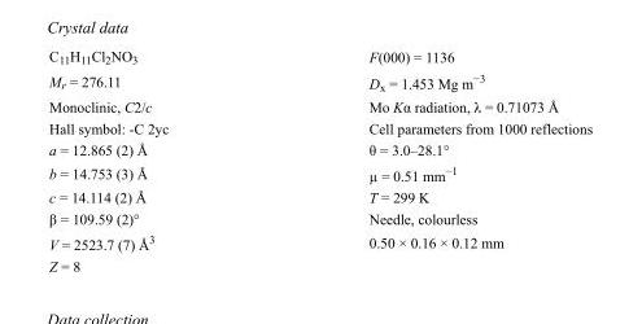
<table><tbody><tr><td>C<sub>11</sub>H<sub>11</sub>Cl<sub>2</sub>NO<sub>3</sub></td><td>F(000) = 1136</td></tr><tr><td>M<sub>r</sub> = 276.11</td><td>D<sub>x</sub> = 1.453 Mg m<sup>−3</sup></td></tr><tr><td>Monoclinic, C2/c</td><td>Mo Kα radiation, λ = 0.71073 Å</td></tr><tr><td>Hall symbol: -C 2yc</td><td>Cell parameters from 1000 reflections</td></tr><tr><td>a = 12.865 (2) Å</td><td>θ = 3.0–28.1°</td></tr><tr><td>b = 14.753 (3) Å</td><td>µ = 0.51 mm<sup>−1</sup></td></tr><tr><td>c = 14.114 (2) Å</td><td>T = 299 K</td></tr><tr><td>β = 109.59 (2)°</td><td>Needle, colourless</td></tr><tr><td>V = 2523.7 (7) Å<sup>3</sup></td><td>0.50 × 0.16 × 0.12 mm</td></tr><tr><td>Z = 8</td><td></td></tr></tbody></table>